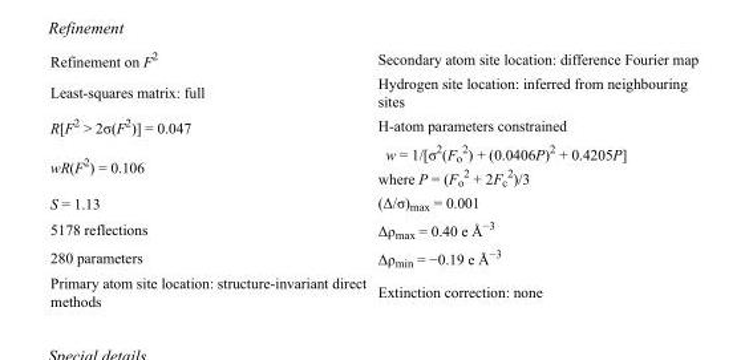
<table><tbody><tr><td>Refinement on F<sup>2</sup></td><td>Secondary atom site location: difference Fourier map</td></tr><tr><td>Least-squares matrix: full</td><td>Hydrogen site location: inferred from neighbouring sites</td></tr><tr><td>R[F<sup>2</sup> &gt; 2σ(F<sup>2</sup>)] = 0.047</td><td>H-atom parameters constrained</td></tr><tr><td>wR(F<sup>2</sup>) = 0.106</td><td>w = 1/[σ<sup>2</sup>(F<sub>o</sub> <sup>2</sup>) + (0.0406P)<sup>2</sup> + 0.4205P] where P = (F<sub>o</sub> <sup>2</sup> + 2F<sub>c</sub> <sup>2</sup>)/3</td></tr><tr><td>S = 1.13</td><td>(Δ/σ)<sub>max</sub> = 0.001</td></tr><tr><td>5178 reflections</td><td>Δρ<sub>max</sub> = 0.40 e Å<sup>−3</sup></td></tr><tr><td>280 parameters</td><td>Δρ<sub>min</sub> = −0.19 e Å<sup>−3</sup></td></tr><tr><td>Primary atom site location: structure-invariant direct methods</td><td>Extinction correction: none</td></tr></tbody></table>